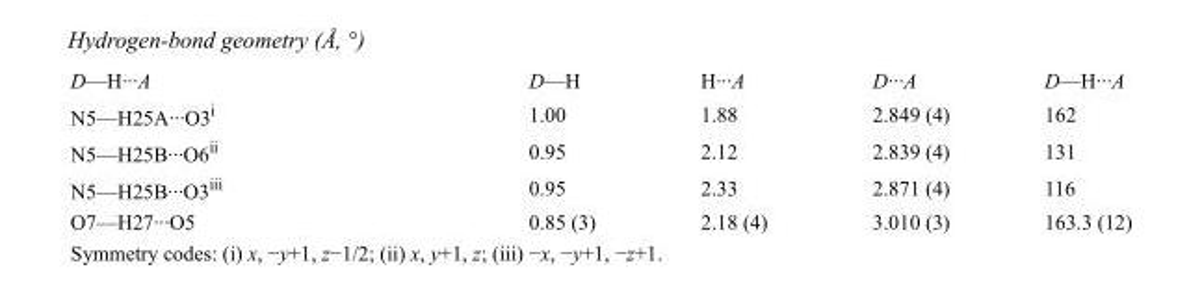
<table><tbody><tr><td>D—H···A</td><td>D—H</td><td>H···A</td><td>D···A</td><td>D—H···A</td></tr><tr><td>N5—H25A···O3<sup>i</sup></td><td>1.00</td><td>1.88</td><td>2.849 (4)</td><td>162</td></tr><tr><td>N5—H25B···O6<sup>ii</sup></td><td>0.95</td><td>2.12</td><td>2.839 (4)</td><td>131</td></tr><tr><td>N5—H25B···O3<sup>iii</sup></td><td>0.95</td><td>2.33</td><td>2.871 (4)</td><td>116</td></tr><tr><td>O7—H27···O5</td><td>0.85 (3)</td><td>2.18 (4)</td><td>3.010 (3)</td><td>163.3 (12)</td></tr></tbody></table>